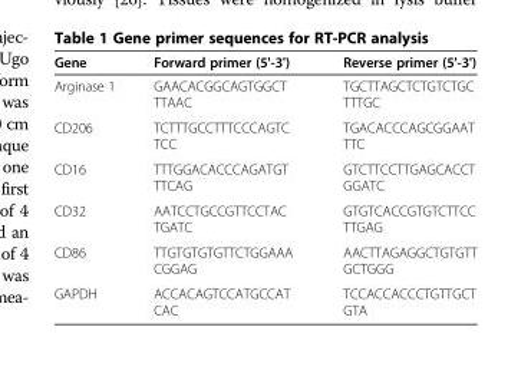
<table><thead><tr><td>Gene</td><td>Forward primer (5&#x27;-3&#x27;)</td><td>Reverse primer (5&#x27;-3&#x27;)</td></tr></thead><tbody><tr><td>Arginase 1</td><td>GAACACGGCAGTGGCT TTAAC</td><td>TGCTTAGCTCTGTCTGC TTTGC</td></tr><tr><td>CD206</td><td>TCTTTGCCTTTCCCAGTC TCC</td><td>TGACACCCAGCGGAAT TTC</td></tr><tr><td>CD16</td><td>TTTGGACACCCAGATGT TTCAG</td><td>GTCTTCCTTGAGCACCT GGATC</td></tr><tr><td>CD32</td><td>AATCCTGCCGTTCCTAC TGATC</td><td>GTGTCACCGTGTCTTCC TTGAG</td></tr><tr><td>CD86</td><td>TTGTGTGTGTTCTGGAAA CGGAG</td><td>AACTTAGAGGCTGTGTT GCTGGG</td></tr><tr><td>GAPDH</td><td>ACCACAGTCCATGCCAT CAC</td><td>TCCACCACCCTGTTGCT GTA</td></tr></tbody></table>